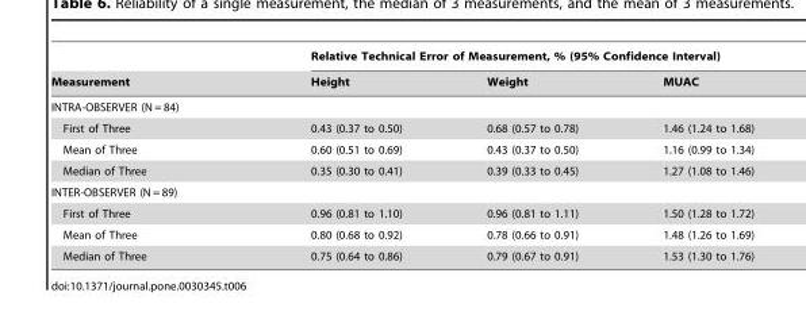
<table><thead><tr><td rowspan="2">Measurement</td><td colspan="3">Relative Technical Error of Measurement, % (95% Confidence Interval)</td></tr><tr><td>Height</td><td>Weight</td><td>MUAC</td></tr></thead><tbody><tr><td colspan="4">INTRA-OBSERVER (N = 84)</td></tr><tr><td>First of Three</td><td>0.43 (0.37 to 0.50)</td><td>0.68 (0.57 to 0.78)</td><td>1.46 (1.24 to 1.68)</td></tr><tr><td>Mean of Three</td><td>0.60 (0.51 to 0.69)</td><td>0.43 (0.37 to 0.50)</td><td>1.16 (0.99 to 1.34)</td></tr><tr><td>Median of Three</td><td>0.35 (0.30 to 0.41)</td><td>0.39 (0.33 to 0.45)</td><td>1.27 (1.08 to 1.46)</td></tr><tr><td colspan="4">INTER-OBSERVER (N = 89)</td></tr><tr><td>First of Three</td><td>0.96 (0.81 to 1.10)</td><td>0.96 (0.81 to 1.11)</td><td>1.50 (1.28 to 1.72)</td></tr><tr><td>Mean of Three</td><td>0.80 (0.68 to 0.92)</td><td>0.78 (0.66 to 0.91)</td><td>1.48 (1.26 to 1.69)</td></tr><tr><td>Median of Three</td><td>0.75 (0.64 to 0.86)</td><td>0.79 (0.67 to 0.91)</td><td>1.53 (1.30 to 1.76)</td></tr></tbody></table>